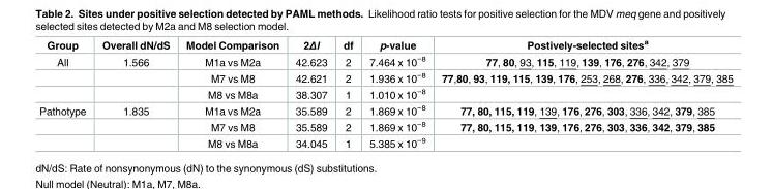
<table><thead><tr><td>Group</td><td>Overall dN/dS</td><td>Model Comparison</td><td>2Δl</td><td>df</td><td>p-value</td><td>Postively-selected sites<sup>a</sup></td></tr></thead><tbody><tr><td rowspan="3">All</td><td>1.566</td><td>M1a vs M2a</td><td>42.623</td><td>2</td><td>7.464 x 10<sup>−8</sup></td><td>77, 80, 93, 115, 119, 139, 176, 276, 342, 379</td></tr><tr><td></td><td>M7 vs M8</td><td>42.621</td><td>2</td><td>1.936 x 10<sup>−8</sup></td><td>77,80, 93, 119, 115, 139, 176, 253, 268, 276, 336, 342, 379, 385</td></tr><tr><td></td><td>M8 vs M8a</td><td>38.307</td><td>1</td><td>1.010 x 10<sup>−8</sup></td><td></td></tr><tr><td rowspan="3">Pathotype</td><td>1.835</td><td>M1a vs M2a</td><td>35.589</td><td>2</td><td>1.869 x 10<sup>−8</sup></td><td>77, 80, 115, 119, 139, 176, 276, 303, 336, 342, 379, 385</td></tr><tr><td></td><td>M7 vs M8</td><td>35.589</td><td>2</td><td>1.869 x 10<sup>−8</sup></td><td>77, 80, 115, 119, 139, 176, 276, 303, 336, 342, 379, 385</td></tr><tr><td></td><td>M8 vs M8a</td><td>34.045</td><td>1</td><td>5.385 x 10<sup>−9</sup></td><td></td></tr></tbody></table>